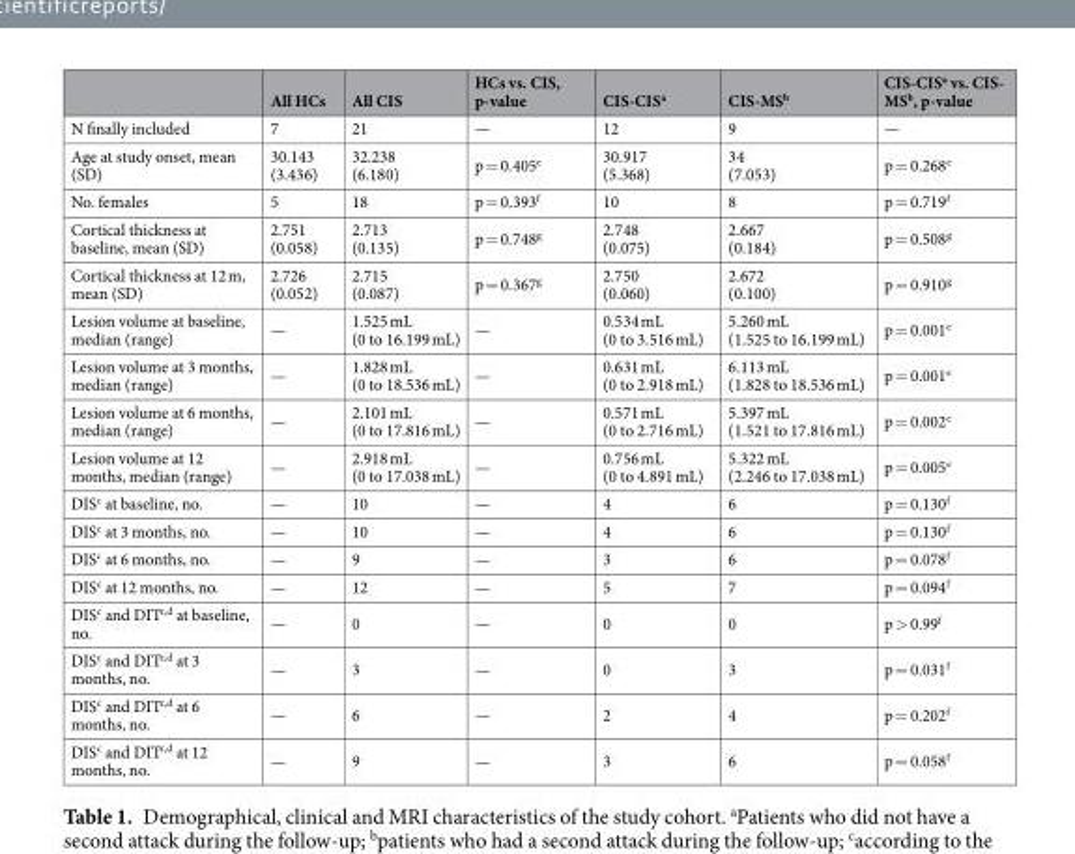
<table><thead><tr><td></td><td>All HCs</td><td>All CIS</td><td>HCs vs. CIS, p-value</td><td>CIS-CIS<sup>a</sup></td><td>CIS-MS<sup>b</sup></td><td>CIS-CIS<sup>a</sup> vs. CIS- MS<sup>b</sup>, p-value</td></tr></thead><tbody><tr><td>N finally included</td><td>7</td><td>21</td><td>—</td><td>12</td><td>9</td><td>—</td></tr><tr><td>Age at study onset, mean (SD)</td><td>30.143 (3.436)</td><td>32.238 (6.180)</td><td>p = 0.405<sup>e</sup></td><td>30.917 (5.368)</td><td>34 (7.053)</td><td>p = 0.268<sup>e</sup></td></tr><tr><td>No. females</td><td>5</td><td>18</td><td>p = 0.393<sup>f</sup></td><td>10</td><td>8</td><td>p = 0.719<sup>f</sup></td></tr><tr><td>Cortical thickness at baseline, mean (SD)</td><td>2.751 (0.058)</td><td>2.713 (0.135)</td><td>p = 0.748<sup>g</sup></td><td>2.748 (0.075)</td><td>2.667 (0.184)</td><td>p = 0.508<sup>g</sup></td></tr><tr><td>Cortical thickness at 12 m, mean (SD)</td><td>2.726 (0.052)</td><td>2.715 (0.087)</td><td>p = 0.367<sup>g</sup></td><td>2.750 (0.060)</td><td>2.672 (0.100)</td><td>p = 0.910<sup>g</sup></td></tr><tr><td>Lesion volume at baseline, median (range)</td><td>—</td><td>1.525 mL (0 to 16.199 mL)</td><td>—</td><td>0.534 mL (0 to 3.516 mL)</td><td>5.260 mL (1.525 to 16.199 mL)</td><td>p = 0.001<sup>e</sup></td></tr><tr><td>Lesion volume at 3 months, median (range)</td><td>—</td><td>1.828 mL (0 to 18.536 mL)</td><td>—</td><td>0.631 mL (0 to 2.918 mL)</td><td>6.113 mL (1.828 to 18.536 mL)</td><td>p = 0.001<sup>e</sup></td></tr><tr><td>Lesion volume at 6 months, median (range)</td><td>—</td><td>2.101 mL (0 to 17.816 mL)</td><td>—</td><td>0.571 mL (0 to 2.716 mL)</td><td>5.397 mL (1.521 to 17.816 mL)</td><td>p = 0.002<sup>e</sup></td></tr><tr><td>Lesion volume at 12 months, median (range)</td><td>—</td><td>2.918 mL (0 to 17.038 mL)</td><td>—</td><td>0.756 mL (0 to 4.891 mL)</td><td>5.322 mL (2.246 to 17.038 mL)</td><td>p = 0.005<sup>e</sup></td></tr><tr><td>DIS<sup>c</sup> at baseline, no.</td><td>—</td><td>10</td><td>—</td><td>4</td><td>6</td><td>p = 0.130<sup>f</sup></td></tr><tr><td>DIS<sup>c</sup> at 3 months, no.</td><td>—</td><td>10</td><td>—</td><td>4</td><td>6</td><td>p = 0.130<sup>f</sup></td></tr><tr><td>DIS<sup>c</sup> at 6 months, no.</td><td>—</td><td>9</td><td>—</td><td>3</td><td>6</td><td>p = 0.078<sup>f</sup></td></tr><tr><td>DIS<sup>c</sup> at 12 months, no.</td><td>—</td><td>12</td><td>—</td><td>5</td><td>7</td><td>p = 0.094<sup>f</sup></td></tr><tr><td>DIS<sup>c</sup> and DIT<sup>c,d</sup> at baseline, no.</td><td>—</td><td>0</td><td>—</td><td>0</td><td>0</td><td>p &gt; 0.99<sup>f</sup></td></tr><tr><td>DIS<sup>c</sup> and DIT<sup>c,d</sup> at 3 months, no.</td><td>—</td><td>3</td><td>—</td><td>0</td><td>3</td><td>p = 0.031<sup>f</sup></td></tr><tr><td>DIS<sup>c</sup> and DIT<sup>c,d</sup> at 6 months, no.</td><td>—</td><td>6</td><td>—</td><td>2</td><td>4</td><td>p = 0.202<sup>f</sup></td></tr><tr><td>DIS<sup>c</sup> and DIT<sup>c,d</sup> at 12 months, no.</td><td>—</td><td>9</td><td>—</td><td>3</td><td>6</td><td>p = 0.058<sup>f</sup></td></tr></tbody></table>